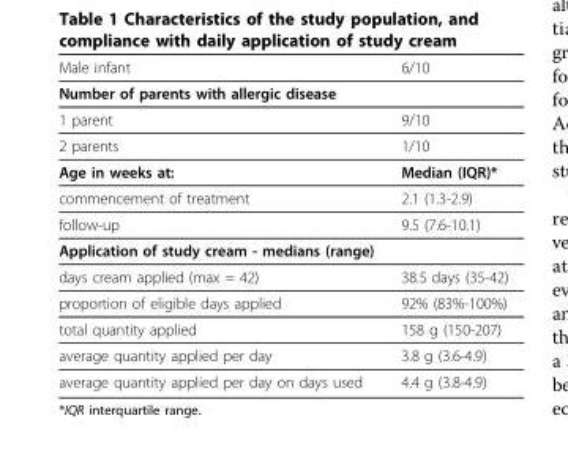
<table><thead><tr><td>Male infant</td><td>6/10</td></tr></thead><tbody><tr><td colspan="2">Number of parents with allergic disease</td></tr><tr><td>1 parent</td><td>9/10</td></tr><tr><td>2 parents</td><td>1/10</td></tr><tr><td>Age in weeks at:</td><td>Median (IQR)*</td></tr><tr><td>commencement of treatment</td><td>2.1 (1.3-2.9)</td></tr><tr><td>follow-up</td><td>9.5 (7.6-10.1)</td></tr><tr><td colspan="2">Application of study cream - medians (range)</td></tr><tr><td>days cream applied (max = 42)</td><td>38.5 days (35-42)</td></tr><tr><td>proportion of eligible days applied</td><td>92% (83%-100%)</td></tr><tr><td>total quantity applied</td><td>158 g (150-207)</td></tr><tr><td>average quantity applied per day</td><td>3.8 g (3.6-4.9)</td></tr><tr><td>average quantity applied per day on days used</td><td>4.4 g (3.8-4.9)</td></tr></tbody></table>